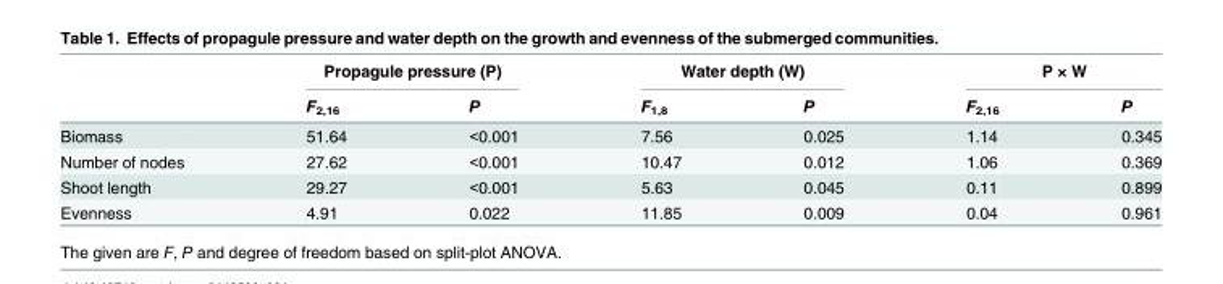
<table><thead><tr><td rowspan="2"></td><td colspan="2">Propagule pressure (P)</td><td colspan="2">Water depth (W)</td><td colspan="2">P × W</td></tr><tr><td>F<sub>2,16</sub></td><td>P</td><td>F<sub>1,8</sub></td><td>P</td><td>F<sub>2,16</sub></td><td>P</td></tr></thead><tbody><tr><td>Biomass</td><td>51.64</td><td>&lt;0.001</td><td>7.56</td><td>0.025</td><td>1.14</td><td>0.345</td></tr><tr><td>Number of nodes</td><td>27.62</td><td>&lt;0.001</td><td>10.47</td><td>0.012</td><td>1.06</td><td>0.369</td></tr><tr><td>Shoot length</td><td>29.27</td><td>&lt;0.001</td><td>5.63</td><td>0.045</td><td>0.11</td><td>0.899</td></tr><tr><td>Evenness</td><td>4.91</td><td>0.022</td><td>11.85</td><td>0.009</td><td>0.04</td><td>0.961</td></tr></tbody></table>